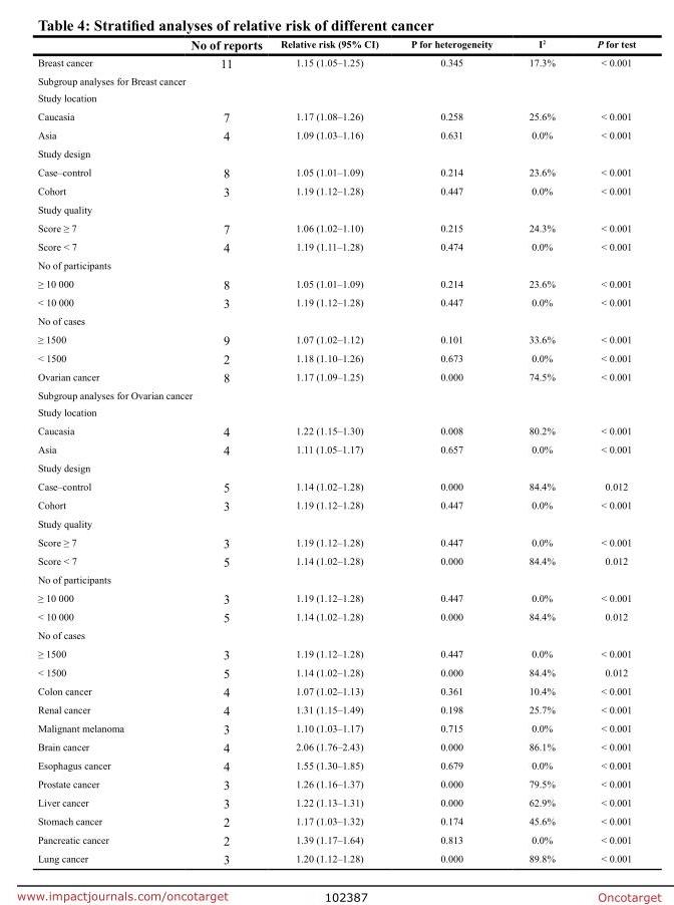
<table><thead><tr><td></td><td>No of reports</td><td>Relative risk (95% CI)</td><td>P for heterogeneity</td><td>I<sup>2</sup></td><td>P for test</td></tr></thead><tbody><tr><td>Breast cancer</td><td>11</td><td>1.15 (1.05–1.25)</td><td>0.345</td><td>17.3%</td><td>&lt; 0.001</td></tr><tr><td colspan="6">Subgroup analyses for Breast cancer</td></tr><tr><td colspan="6">Study location</td></tr><tr><td>Caucasia</td><td>7</td><td>1.17 (1.08–1.26)</td><td>0.258</td><td>25.6%</td><td>&lt; 0.001</td></tr><tr><td>Asia</td><td>4</td><td>1.09 (1.03–1.16)</td><td>0.631</td><td>0.0%</td><td>&lt; 0.001</td></tr><tr><td colspan="6">Study design</td></tr><tr><td>Case–control</td><td>8</td><td>1.05 (1.01–1.09)</td><td>0.214</td><td>23.6%</td><td>&lt; 0.001</td></tr><tr><td>Cohort</td><td>3</td><td>1.19 (1.12–1.28)</td><td>0.447</td><td>0.0%</td><td>&lt; 0.001</td></tr><tr><td colspan="6">Study quality</td></tr><tr><td>Score ≥ 7</td><td>7</td><td>1.06 (1.02–1.10)</td><td>0.215</td><td>24.3%</td><td>&lt; 0.001</td></tr><tr><td>Score &lt; 7</td><td>4</td><td>1.19 (1.11–1.28)</td><td>0.474</td><td>0.0%</td><td>&lt; 0.001</td></tr><tr><td colspan="6">No of participants</td></tr><tr><td>≥ 10 000</td><td>8</td><td>1.05 (1.01–1.09)</td><td>0.214</td><td>23.6%</td><td>&lt; 0.001</td></tr><tr><td>&lt; 10 000</td><td>3</td><td>1.19 (1.12–1.28)</td><td>0.447</td><td>0.0%</td><td>&lt; 0.001</td></tr><tr><td colspan="6">No of cases</td></tr><tr><td>≥ 1500</td><td>9</td><td>1.07 (1.02–1.12)</td><td>0.101</td><td>33.6%</td><td>&lt; 0.001</td></tr><tr><td>&lt; 1500</td><td>2</td><td>1.18 (1.10–1.26)</td><td>0.673</td><td>0.0%</td><td>&lt; 0.001</td></tr><tr><td>Ovarian cancer</td><td>8</td><td>1.17 (1.09–1.25)</td><td>0.000</td><td>74.5%</td><td>&lt; 0.001</td></tr><tr><td colspan="6">Subgroup analyses for Ovarian cancer</td></tr><tr><td colspan="6">Study location</td></tr><tr><td>Caucasia</td><td>4</td><td>1.22 (1.15–1.30)</td><td>0.008</td><td>80.2%</td><td>&lt; 0.001</td></tr><tr><td>Asia</td><td>4</td><td>1.11 (1.05–1.17)</td><td>0.657</td><td>0.0%</td><td>&lt; 0.001</td></tr><tr><td colspan="6">Study design</td></tr><tr><td>Case–control</td><td>5</td><td>1.14 (1.02–1.28)</td><td>0.000</td><td>84.4%</td><td>0.012</td></tr><tr><td>Cohort</td><td>3</td><td>1.19 (1.12–1.28)</td><td>0.447</td><td>0.0%</td><td>&lt; 0.001</td></tr><tr><td colspan="6">Study quality</td></tr><tr><td>Score ≥ 7</td><td>3</td><td>1.19 (1.12–1.28)</td><td>0.447</td><td>0.0%</td><td>&lt; 0.001</td></tr><tr><td>Score &lt; 7</td><td>5</td><td>1.14 (1.02–1.28)</td><td>0.000</td><td>84.4%</td><td>0.012</td></tr><tr><td colspan="6">No of participants</td></tr><tr><td>≥ 10 000</td><td>3</td><td>1.19 (1.12–1.28)</td><td>0.447</td><td>0.0%</td><td>&lt; 0.001</td></tr><tr><td>&lt; 10 000</td><td>5</td><td>1.14 (1.02–1.28)</td><td>0.000</td><td>84.4%</td><td>0.012</td></tr><tr><td colspan="6">No of cases</td></tr><tr><td>≥ 1500</td><td>3</td><td>1.19 (1.12–1.28)</td><td>0.447</td><td>0.0%</td><td>&lt; 0.001</td></tr><tr><td>&lt; 1500</td><td>5</td><td>1.14 (1.02–1.28)</td><td>0.000</td><td>84.4%</td><td>0.012</td></tr><tr><td>Colon cancer</td><td>4</td><td>1.07 (1.02–1.13)</td><td>0.361</td><td>10.4%</td><td>&lt; 0.001</td></tr><tr><td>Renal cancer</td><td>4</td><td>1.31 (1.15–1.49)</td><td>0.198</td><td>25.7%</td><td>&lt; 0.001</td></tr><tr><td>Malignant melanoma</td><td>3</td><td>1.10 (1.03–1.17)</td><td>0.715</td><td>0.0%</td><td>&lt; 0.001</td></tr><tr><td>Brain cancer</td><td>4</td><td>2.06 (1.76–2.43)</td><td>0.000</td><td>86.1%</td><td>&lt; 0.001</td></tr><tr><td>Esophagus cancer</td><td>4</td><td>1.55 (1.30–1.85)</td><td>0.679</td><td>0.0%</td><td>&lt; 0.001</td></tr><tr><td>Prostate cancer</td><td>3</td><td>1.26 (1.16–1.37)</td><td>0.000</td><td>79.5%</td><td>&lt; 0.001</td></tr><tr><td>Liver cancer</td><td>3</td><td>1.22 (1.13–1.31)</td><td>0.000</td><td>62.9%</td><td>&lt; 0.001</td></tr><tr><td>Stomach cancer</td><td>2</td><td>1.17 (1.03–1.32)</td><td>0.174</td><td>45.6%</td><td>&lt; 0.001</td></tr><tr><td>Pancreatic cancer</td><td>2</td><td>1.39 (1.17–1.64)</td><td>0.813</td><td>0.0%</td><td>&lt; 0.001</td></tr><tr><td>Lung cancer</td><td>3</td><td>1.20 (1.12–1.28)</td><td>0.000</td><td>89.8%</td><td>&lt; 0.001</td></tr></tbody></table>